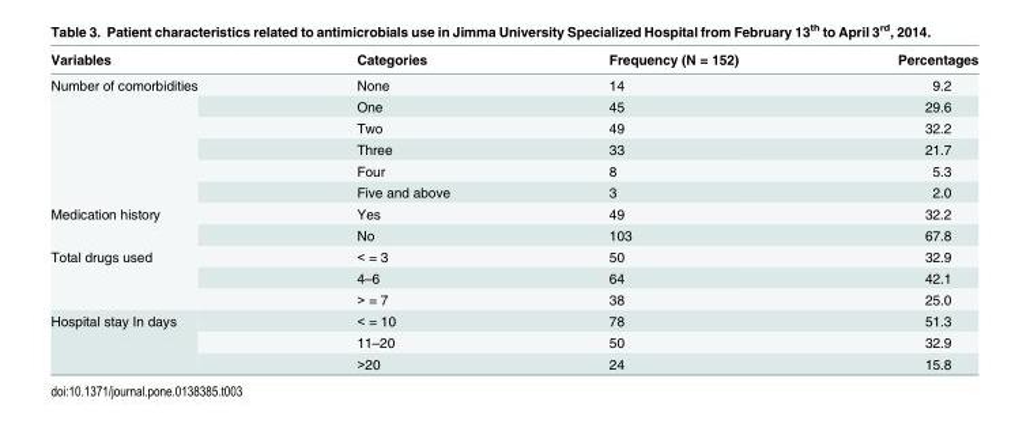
<table><thead><tr><td>Variables</td><td>Categories</td><td>Frequency (N = 152)</td><td>Percentages</td></tr></thead><tbody><tr><td rowspan="6">Number of comorbidities</td><td>None</td><td>14</td><td>9.2</td></tr><tr><td>One</td><td>45</td><td>29.6</td></tr><tr><td>Two</td><td>49</td><td>32.2</td></tr><tr><td>Three</td><td>33</td><td>21.7</td></tr><tr><td>Four</td><td>8</td><td>5.3</td></tr><tr><td>Five and above</td><td>3</td><td>2.0</td></tr><tr><td rowspan="2">Medication history</td><td>Yes</td><td>49</td><td>32.2</td></tr><tr><td>No</td><td>103</td><td>67.8</td></tr><tr><td rowspan="3">Total drugs used</td><td>&lt; = 3</td><td>50</td><td>32.9</td></tr><tr><td>4–6</td><td>64</td><td>42.1</td></tr><tr><td>&gt; = 7</td><td>38</td><td>25.0</td></tr><tr><td rowspan="3">Hospital stay In days</td><td>&lt; = 10</td><td>78</td><td>51.3</td></tr><tr><td>11–20</td><td>50</td><td>32.9</td></tr><tr><td>&gt;20</td><td>24</td><td>15.8</td></tr></tbody></table>